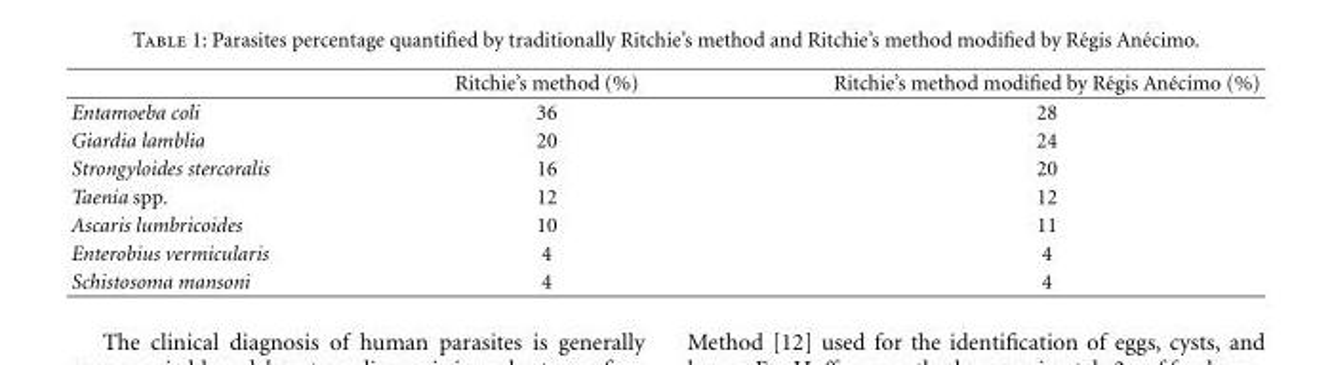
<table><thead><tr><td></td><td>Ritchie’s method (%)</td><td>Ritchie’s method modified by R´egis An´ecimo (%)</td></tr></thead><tbody><tr><td>Entamoeba coli</td><td>36</td><td>28</td></tr><tr><td>Giardia lamblia</td><td>20</td><td>24</td></tr><tr><td>Strongyloides stercoralis</td><td>16</td><td>20</td></tr><tr><td>Taenia spp.</td><td>12</td><td>12</td></tr><tr><td>Ascaris lumbricoides</td><td>10</td><td>11</td></tr><tr><td>Enterobius vermicularis</td><td>4</td><td>4</td></tr><tr><td>Schistosoma mansoni</td><td>4</td><td>4</td></tr></tbody></table>